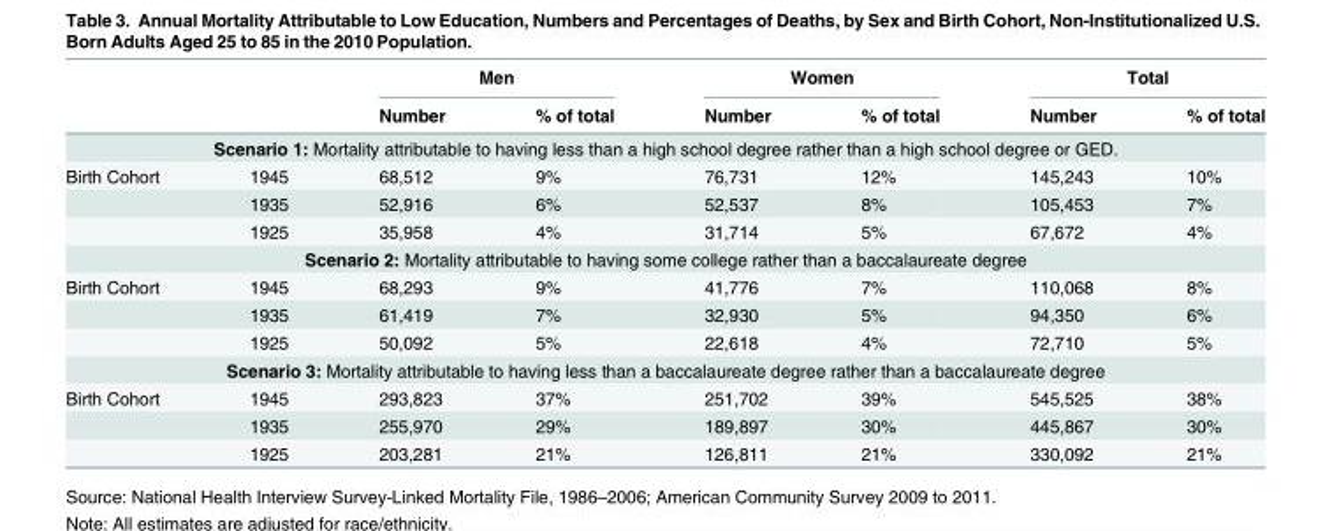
<table><thead><tr><td rowspan="2"></td><td rowspan="2"></td><td colspan="2">Men</td><td colspan="2">Women</td><td colspan="2">Total</td></tr><tr><td>Number</td><td>% of total</td><td>Number</td><td>% of total</td><td>Number</td><td>% of total</td></tr></thead><tbody><tr><td colspan="8">Scenario 1: Mortality attributable to having less than a high school degree rather than a high school degree or GED.</td></tr><tr><td rowspan="3">Birth Cohort</td><td>1945</td><td>68,512</td><td>9%</td><td>76,731</td><td>12%</td><td>145,243</td><td>10%</td></tr><tr><td>1935</td><td>52,916</td><td>6%</td><td>52,537</td><td>8%</td><td>105,453</td><td>7%</td></tr><tr><td>1925</td><td>35,958</td><td>4%</td><td>31,714</td><td>5%</td><td>67,672</td><td>4%</td></tr><tr><td colspan="8">Scenario 2: Mortality attributable to having some college rather than a baccalaureate degree</td></tr><tr><td rowspan="3">Birth Cohort</td><td>1945</td><td>68,293</td><td>9%</td><td>41,776</td><td>7%</td><td>110,068</td><td>8%</td></tr><tr><td>1935</td><td>61,419</td><td>7%</td><td>32,930</td><td>5%</td><td>94,350</td><td>6%</td></tr><tr><td>1925</td><td>50,092</td><td>5%</td><td>22,618</td><td>4%</td><td>72,710</td><td>5%</td></tr><tr><td colspan="8">Scenario 3: Mortality attributable to having less than a baccalaureate degree rather than a baccalaureate degree</td></tr><tr><td rowspan="3">Birth Cohort</td><td>1945</td><td>293,823</td><td>37%</td><td>251,702</td><td>39%</td><td>545,525</td><td>38%</td></tr><tr><td>1935</td><td>255,970</td><td>29%</td><td>189,897</td><td>30%</td><td>445,867</td><td>30%</td></tr><tr><td>1925</td><td>203,281</td><td>21%</td><td>126,811</td><td>21%</td><td>330,092</td><td>21%</td></tr></tbody></table>